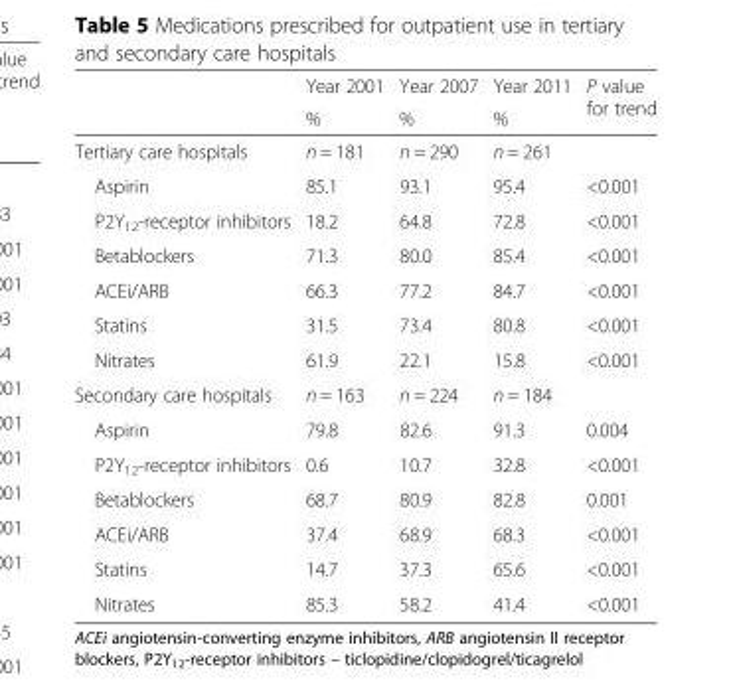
<table><thead><tr><td rowspan="2"></td><td rowspan="2">Year 2001 %</td><td rowspan="2">Year 2007 %</td><td rowspan="2">Year 2011 %</td><td rowspan="2">P value for trend</td></tr><tr></tr></thead><tbody><tr><td>Tertiary care hospitals</td><td>n = 181</td><td>n = 290</td><td>n = 261</td><td></td></tr><tr><td>Aspirin</td><td>85.1</td><td>93.1</td><td>95.4</td><td>&lt;0.001</td></tr><tr><td>P2Y<sub>12</sub>-receptor inhibitors</td><td>18.2</td><td>64.8</td><td>72.8</td><td>&lt;0.001</td></tr><tr><td>Betablockers</td><td>71.3</td><td>80.0</td><td>85.4</td><td>&lt;0.001</td></tr><tr><td>ACEi/ARB</td><td>66.3</td><td>77.2</td><td>84.7</td><td>&lt;0.001</td></tr><tr><td>Statins</td><td>31.5</td><td>73.4</td><td>80.8</td><td>&lt;0.001</td></tr><tr><td>Nitrates</td><td>61.9</td><td>22.1</td><td>15.8</td><td>&lt;0.001</td></tr><tr><td>Secondary care hospitals</td><td>n = 163</td><td>n = 224</td><td>n = 184</td><td></td></tr><tr><td>Aspirin</td><td>79.8</td><td>82.6</td><td>91.3</td><td>0.004</td></tr><tr><td>P2Y<sub>12</sub>-receptor inhibitors</td><td>0.6</td><td>10.7</td><td>32.8</td><td>&lt;0.001</td></tr><tr><td>Betablockers</td><td>68.7</td><td>80.9</td><td>82.8</td><td>0.001</td></tr><tr><td>ACEi/ARB</td><td>37.4</td><td>68.9</td><td>68.3</td><td>&lt;0.001</td></tr><tr><td>Statins</td><td>14.7</td><td>37.3</td><td>65.6</td><td>&lt;0.001</td></tr><tr><td>Nitrates</td><td>85.3</td><td>58.2</td><td>41.4</td><td>&lt;0.001</td></tr></tbody></table>